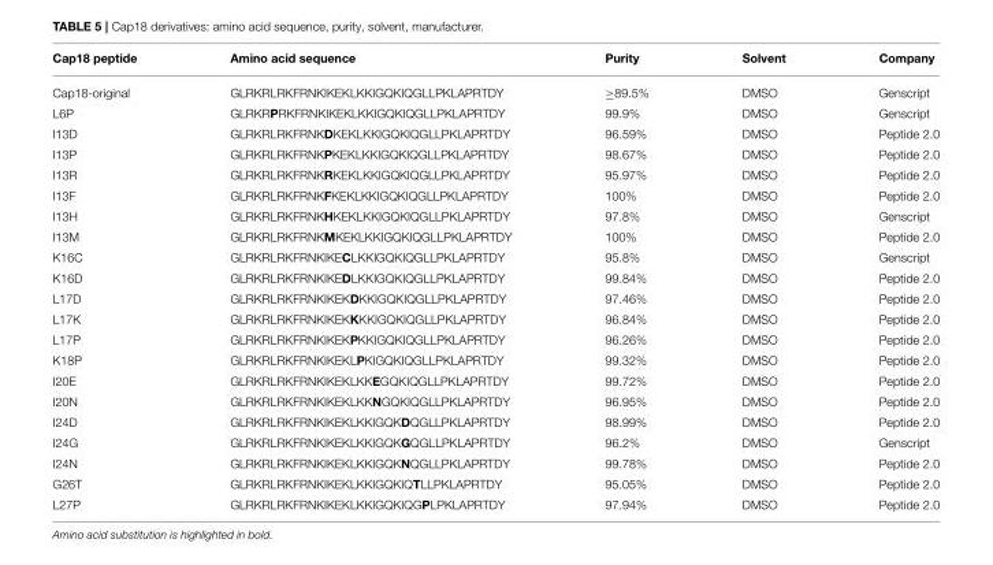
<table><thead><tr><td>Cap18 peptide</td><td>Amino acid sequence</td><td>Purity</td><td>Solvent</td><td>Company</td></tr></thead><tbody><tr><td>Cap18-original</td><td>GLRKRLRKFRNKIKEKLKKIGQKIQGLLPKLAPRTDY</td><td>≥89.5%</td><td>DMSO</td><td>Genscript</td></tr><tr><td>L6P</td><td>GLRKRPRKFRNKIKEKLKKIGQKIQGLLPKLAPRTDY</td><td>99.9%</td><td>DMSO</td><td>Genscript</td></tr><tr><td>I13D</td><td>GLRKRLRKFRNKDKEKLKKIGQKIQGLLPKLAPRTDY</td><td>96.59%</td><td>DMSO</td><td>Peptide 2.0</td></tr><tr><td>I13P</td><td>GLRKRLRKFRNKPKEKLKKIGQKIQGLLPKLAPRTDY</td><td>98.67%</td><td>DMSO</td><td>Peptide 2.0</td></tr><tr><td>I13R</td><td>GLRKRLRKFRNKRKEKLKKIGQKIQGLLPKLAPRTDY</td><td>95.97%</td><td>DMSO</td><td>Peptide 2.0</td></tr><tr><td>I13F</td><td>GLRKRLRKFRNKFKEKLKKIGQKIQGLLPKLAPRTDY</td><td>100%</td><td>DMSO</td><td>Peptide 2.0</td></tr><tr><td>I13H</td><td>GLRKRLRKFRNKHKEKLKKIGQKIQGLLPKLAPRTDY</td><td>97.8%</td><td>DMSO</td><td>Genscript</td></tr><tr><td>I13M</td><td>GLRKRLRKFRNKMKEKLKKIGQKIQGLLPKLAPRTDY</td><td>100%</td><td>DMSO</td><td>Peptide 2.0</td></tr><tr><td>K16C</td><td>GLRKRLRKFRNKIKECLKKIGQKIQGLLPKLAPRTDY</td><td>95.8%</td><td>DMSO</td><td>Genscript</td></tr><tr><td>K16D</td><td>GLRKRLRKFRNKIKEDLKKIGQKIQGLLPKLAPRTDY</td><td>99.84%</td><td>DMSO</td><td>Peptide 2.0</td></tr><tr><td>L17D</td><td>GLRKRLRKFRNKIKEKDKKIGQKIQGLLPKLAPRTDY</td><td>97.46%</td><td>DMSO</td><td>Peptide 2.0</td></tr><tr><td>L17K</td><td>GLRKRLRKFRNKIKEKKKKIGQKIQGLLPKLAPRTDY</td><td>96.84%</td><td>DMSO</td><td>Peptide 2.0</td></tr><tr><td>L17P</td><td>GLRKRLRKFRNKIKEKPKKIGQKIQGLLPKLAPRTDY</td><td>96.26%</td><td>DMSO</td><td>Peptide 2.0</td></tr><tr><td>K18P</td><td>GLRKRLRKFRNKIKEKLPKIGQKIQGLLPKLAPRTDY</td><td>99.32%</td><td>DMSO</td><td>Peptide 2.0</td></tr><tr><td>I20E</td><td>GLRKRLRKFRNKIKEKLKKEGQKIQGLLPKLAPRTDY</td><td>99.72%</td><td>DMSO</td><td>Peptide 2.0</td></tr><tr><td>I20N</td><td>GLRKRLRKFRNKIKEKLKKNGQKIQGLLPKLAPRTDY</td><td>96.95%</td><td>DMSO</td><td>Peptide 2.0</td></tr><tr><td>I24D</td><td>GLRKRLRKFRNKIKEKLKKIGQKDQGLLPKLAPRTDY</td><td>98.99%</td><td>DMSO</td><td>Peptide 2.0</td></tr><tr><td>I24G</td><td>GLRKRLRKFRNKIKEKLKKIGQKGQGLLPKLAPRTDY</td><td>96.2%</td><td>DMSO</td><td>Genscript</td></tr><tr><td>I24N</td><td>GLRKRLRKFRNKIKEKLKKIGQKNQGLLPKLAPRTDY</td><td>99.78%</td><td>DMSO</td><td>Peptide 2.0</td></tr><tr><td>G26T</td><td>GLRKRLRKFRNKIKEKLKKIGQKIQTLLPKLAPRTDY</td><td>95.05%</td><td>DMSO</td><td>Peptide 2.0</td></tr><tr><td>L27P</td><td>GLRKRLRKFRNKIKEKLKKIGQKIQGPLPKLAPRTDY</td><td>97.94%</td><td>DMSO</td><td>Peptide 2.0</td></tr></tbody></table>